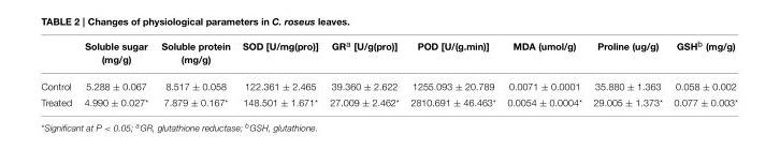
<table><thead><tr><td></td><td>Soluble sugar (mg/g)</td><td>Soluble protein (mg/g)</td><td>SOD [U/mg(pro)]</td><td>GR<sup>a</sup> [U/g(pro)]</td><td>POD [U/(g.min)]</td><td>MDA (umol/g)</td><td>Proline (ug/g)</td><td>GSH<sup>b</sup> (mg/g)</td></tr></thead><tbody><tr><td>Control</td><td>5.288 ± 0.067</td><td>8.517 ± 0.058</td><td>122.361 ± 2.465</td><td>39.360 ± 2.622</td><td>1255.093 ± 20.789</td><td>0.0071 ± 0.0001</td><td>35.880 ± 1.363</td><td>0.058 ± 0.002</td></tr><tr><td>Treated</td><td>4.990 ± 0.027*</td><td>7.879 ± 0.167*</td><td>148.501 ± 1.671*</td><td>27.009 ± 2.462*</td><td>2810.691 ± 46.463*</td><td>0.0054 ± 0.0004*</td><td>29.005 ± 1.373*</td><td>0.077 ± 0.003*</td></tr></tbody></table>